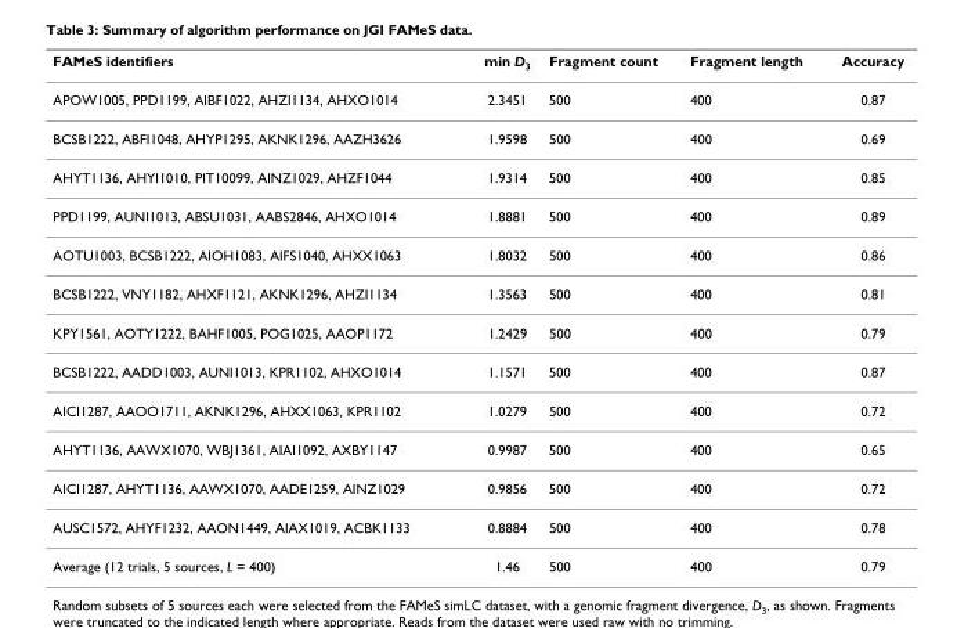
<table><thead><tr><td>FAMeS identifiers</td><td>min D<sub>3</sub></td><td>Fragment count</td><td>Fragment length</td><td>Accuracy</td></tr></thead><tbody><tr><td>APOW1005, PPD1199, AIBF1022, AHZI1134, AHXO1014</td><td>2.3451</td><td>500</td><td>400</td><td>0.87</td></tr><tr><td>BCSB1222, ABFI1048, AHYP1295, AKNK1296, AAZH3626</td><td>1.9598</td><td>500</td><td>400</td><td>0.69</td></tr><tr><td>AHYT1136, AHYI1010, PIT10099, AINZ1029, AHZF1044</td><td>1.9314</td><td>500</td><td>400</td><td>0.85</td></tr><tr><td>PPD1199, AUNI1013, ABSU1031, AABS2846, AHXO1014</td><td>1.8881</td><td>500</td><td>400</td><td>0.89</td></tr><tr><td>AOTU1003, BCSB1222, AIOH1083, AIFS1040, AHXX1063</td><td>1.8032</td><td>500</td><td>400</td><td>0.86</td></tr><tr><td>BCSB1222, VNY1182, AHXF1121, AKNK1296, AHZI1134</td><td>1.3563</td><td>500</td><td>400</td><td>0.81</td></tr><tr><td>KPY1561, AOTY1222, BAHF1005, POG1025, AAOP1172</td><td>1.2429</td><td>500</td><td>400</td><td>0.79</td></tr><tr><td>BCSB1222, AADD1003, AUNI1013, KPR1102, AHXO1014</td><td>1.1571</td><td>500</td><td>400</td><td>0.87</td></tr><tr><td>AICI1287, AAOO1711, AKNK1296, AHXX1063, KPR1102</td><td>1.0279</td><td>500</td><td>400</td><td>0.72</td></tr><tr><td>AHYT1136, AAWX1070, WBJ1361, AIAI1092, AXBY1147</td><td>0.9987</td><td>500</td><td>400</td><td>0.65</td></tr><tr><td>AICI1287, AHYT1136, AAWX1070, AADE1259, AINZ1029</td><td>0.9856</td><td>500</td><td>400</td><td>0.72</td></tr><tr><td>AUSC1572, AHYF1232, AAON1449, AIAX1019, ACBK1133</td><td>0.8884</td><td>500</td><td>400</td><td>0.78</td></tr><tr><td>Average (12 trials, 5 sources, L = 400)</td><td>1.46</td><td>500</td><td>400</td><td>0.79</td></tr></tbody></table>